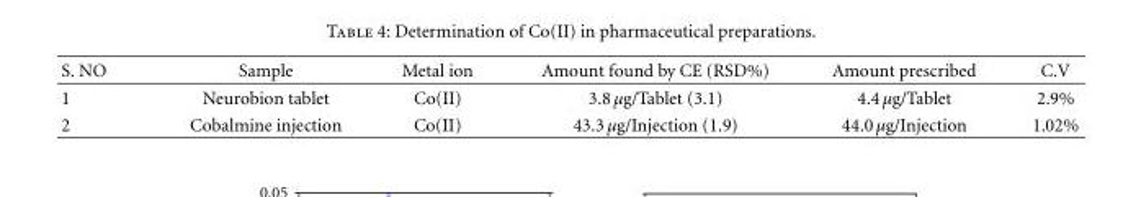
<table><thead><tr><td>S. NO</td><td>Sample</td><td>Metal ion</td><td>Amount found by CE (RSD%)</td><td>Amount prescribed</td><td>C.V</td></tr></thead><tbody><tr><td>1</td><td>Neurobion tablet</td><td>Co(II)</td><td>3.8 µg/Tablet (3.1)</td><td>4.4 µg/Tablet</td><td>2.9%</td></tr><tr><td>2</td><td>Cobalmine injection</td><td>Co(II)</td><td>43.3 µg/Injection (1.9)</td><td>44.0 µg/Injection</td><td>1.02%</td></tr></tbody></table>